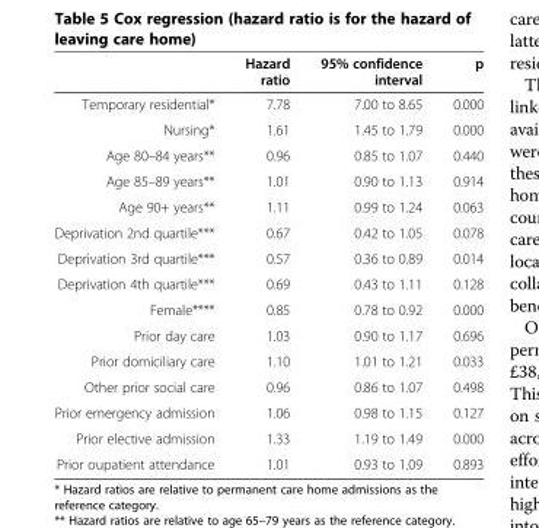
<table><thead><tr><td></td><td>Hazard ratio</td><td>95% confidence interval</td><td>p</td></tr></thead><tbody><tr><td>Temporary residential*</td><td>7.78</td><td>7.00 to 8.65</td><td>0.000</td></tr><tr><td>Nursing*</td><td>1.61</td><td>1.45 to 1.79</td><td>0.000</td></tr><tr><td>Age 80–84 years**</td><td>0.96</td><td>0.85 to 1.07</td><td>0.440</td></tr><tr><td>Age 85–89 years**</td><td>1.01</td><td>0.90 to 1.13</td><td>0.914</td></tr><tr><td>Age 90+ years**</td><td>1.11</td><td>0.99 to 1.24</td><td>0.063</td></tr><tr><td>Deprivation 2nd quartile***</td><td>0.67</td><td>0.42 to 1.05</td><td>0.078</td></tr><tr><td>Deprivation 3rd quartile***</td><td>0.57</td><td>0.36 to 0.89</td><td>0.014</td></tr><tr><td>Deprivation 4th quartile***</td><td>0.69</td><td>0.43 to 1.11</td><td>0.128</td></tr><tr><td>Female****</td><td>0.85</td><td>0.78 to 0.92</td><td>0.000</td></tr><tr><td>Prior day care</td><td>1.03</td><td>0.90 to 1.17</td><td>0.696</td></tr><tr><td>Prior domiciliary care</td><td>1.10</td><td>1.01 to 1.21</td><td>0.033</td></tr><tr><td>Other prior social care</td><td>0.96</td><td>0.86 to 1.07</td><td>0.498</td></tr><tr><td>Prior emergency admission</td><td>1.06</td><td>0.98 to 1.15</td><td>0.127</td></tr><tr><td>Prior elective admission</td><td>1.33</td><td>1.19 to 1.49</td><td>0.000</td></tr><tr><td>Prior oupatient attendance</td><td>1.01</td><td>0.93 to 1.09</td><td>0.893</td></tr></tbody></table>